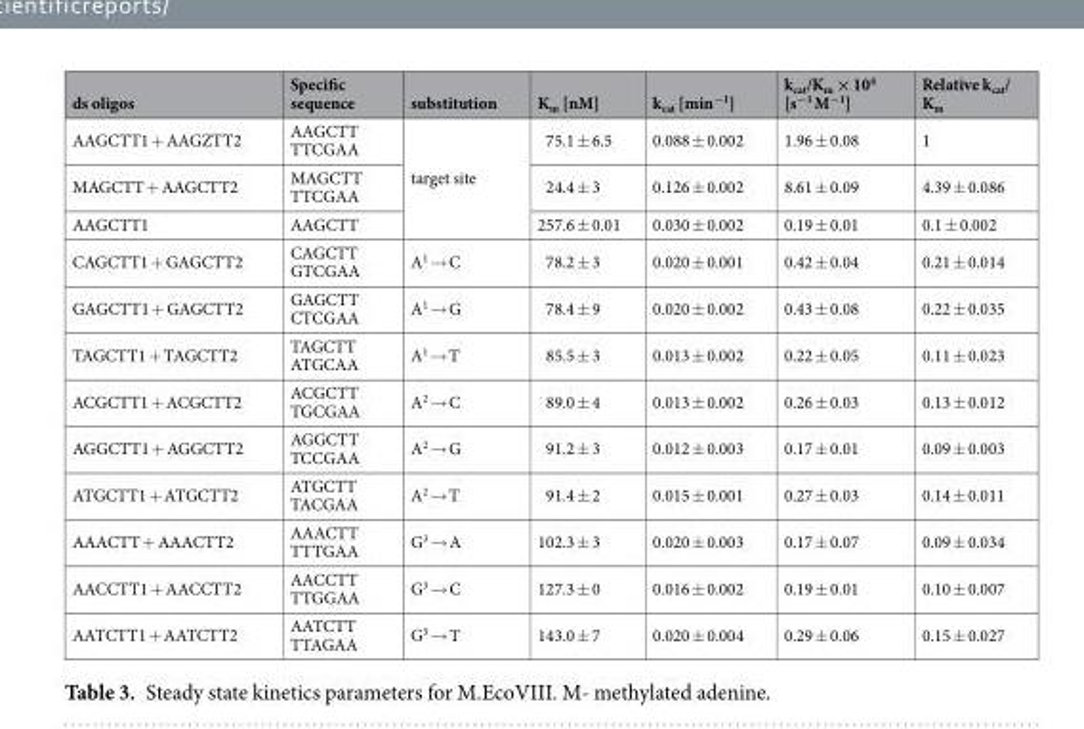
<table><thead><tr><td>ds oligos</td><td>Specific sequence</td><td>substitution</td><td>K<sub>m</sub> [nM]</td><td>k<sub>cat</sub> [min<sup>−1</sup>]</td><td>k<sub>cat</sub>/K<sub>m</sub> × 10<sup>4</sup> [s<sup>−1</sup> M<sup>−1</sup>]</td><td>Relative k<sub>cat</sub>/ K<sub>m</sub></td></tr></thead><tbody><tr><td>AAGCTT1 + AAGZTT2</td><td>AAGCTT TTCGAA</td><td rowspan="3">target site</td><td>75.1 ± 6.5</td><td>0.088 ± 0.002</td><td>1.96 ± 0.08</td><td>1</td></tr><tr><td>MAGCTT + AAGCTT2</td><td>MAGCTT TTCGAA</td><td>24.4 ± 3</td><td>0.126 ± 0.002</td><td>8.61 ± 0.09</td><td>4.39 ± 0.086</td></tr><tr><td>AAGCTT1</td><td>AAGCTT</td><td>257.6 ± 0.01</td><td>0.030 ± 0.002</td><td>0.19 ± 0.01</td><td>0.1 ± 0.002</td></tr><tr><td>CAGCTT1 + GAGCTT2</td><td>CAGCTT GTCGAA</td><td>A<sup>1</sup> → C</td><td>78.2 ± 3</td><td>0.020 ± 0.001</td><td>0.42 ± 0.04</td><td>0.21 ± 0.014</td></tr><tr><td>GAGCTT1 + GAGCTT2</td><td>GAGCTT CTCGAA</td><td>A<sup>1</sup> → G</td><td>78.4 ± 9</td><td>0.020 ± 0.002</td><td>0.43 ± 0.08</td><td>0.22 ± 0.035</td></tr><tr><td>TAGCTT1 + TAGCTT2</td><td>TAGCTT ATGCAA</td><td>A<sup>1</sup> → T</td><td>85.5 ± 3</td><td>0.013 ± 0.002</td><td>0.22 ± 0.05</td><td>0.11 ± 0.023</td></tr><tr><td>ACGCTT1 + ACGCTT2</td><td>ACGCTT TGCGAA</td><td>A<sup>2</sup> → C</td><td>89.0 ± 4</td><td>0.013 ± 0.002</td><td>0.26 ± 0.03</td><td>0.13 ± 0.012</td></tr><tr><td>AGGCTT1 + AGGCTT2</td><td>AGGCTT TCCGAA</td><td>A<sup>2</sup> → G</td><td>91.2 ± 3</td><td>0.012 ± 0.003</td><td>0.17 ± 0.01</td><td>0.09 ± 0.003</td></tr><tr><td>ATGCTT1 + ATGCTT2</td><td>ATGCTT TACGAA</td><td>A<sup>2</sup> → T</td><td>91.4 ± 2</td><td>0.015 ± 0.001</td><td>0.27 ± 0.03</td><td>0.14 ± 0.011</td></tr><tr><td>AAACTT + AAACTT2</td><td>AAACTT TTTGAA</td><td>G<sup>3</sup> → A</td><td>102.3 ± 3</td><td>0.020 ± 0.003</td><td>0.17 ± 0.07</td><td>0.09 ± 0.034</td></tr><tr><td>AACCTT1 + AACCTT2</td><td>AACCTT TTGGAA</td><td>G<sup>3</sup> → C</td><td>127.3 ± 0</td><td>0.016 ± 0.002</td><td>0.19 ± 0.01</td><td>0.10 ± 0.007</td></tr><tr><td>AATCTT1 + AATCTT2</td><td>AATCTT TTAGAA</td><td>G<sup>3</sup> → T</td><td>143.0 ± 7</td><td>0.020 ± 0.004</td><td>0.29 ± 0.06</td><td>0.15 ± 0.027</td></tr></tbody></table>